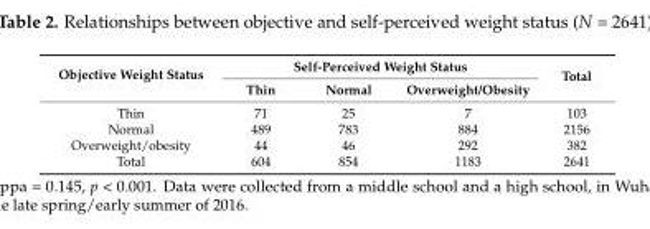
<table><thead><tr><td rowspan="2">Objective Weight Status</td><td colspan="3">Self-Perceived Weight Status</td><td rowspan="2">Total</td></tr><tr><td>Thin</td><td>Normal</td><td>Overweight/Obesity</td></tr></thead><tbody><tr><td>Thin</td><td>71</td><td>25</td><td>7</td><td>103</td></tr><tr><td>Normal</td><td>489</td><td>783</td><td>884</td><td>2156</td></tr><tr><td>Overweight/obesity</td><td>44</td><td>46</td><td>292</td><td>382</td></tr><tr><td>Total</td><td>604</td><td>854</td><td>1183</td><td>2641</td></tr></tbody></table>